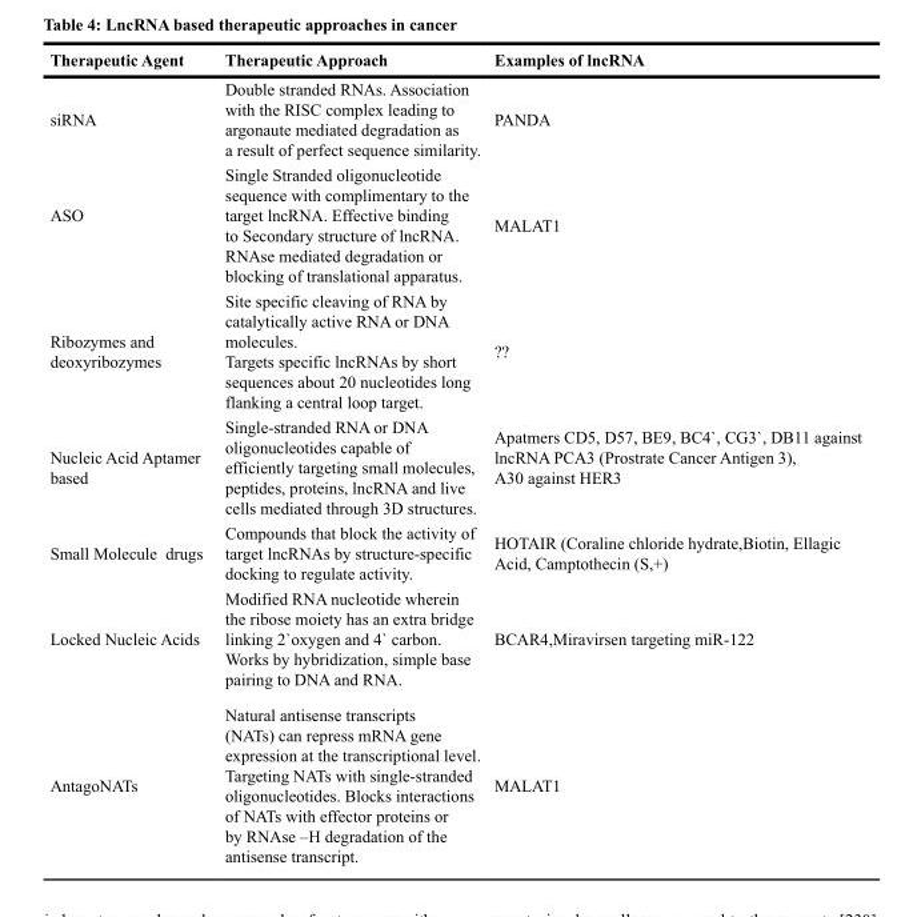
<table><thead><tr><td>Therapeutic Agent</td><td>Therapeutic Approach</td><td>Examples of lncRNA</td></tr></thead><tbody><tr><td>siRNA</td><td>Double stranded RNAs. Association with the RISC complex leading to argonaute mediated degradation as a result of perfect sequence similarity.</td><td>PANDA</td></tr><tr><td>ASO</td><td>Single Stranded oligonucleotide sequence with complimentary to the target lncRNA. Effective binding to Secondary structure of lncRNA. RNAse mediated degradation or blocking of translational apparatus.</td><td>MALAT1</td></tr><tr><td>Ribozymes and deoxyribozymes</td><td>Site specific cleaving of RNA by catalytically active RNA or DNA molecules. Targets specific lncRNAs by short sequences about 20 nucleotides long flanking a central loop target.</td><td>??</td></tr><tr><td>Nucleic Acid Aptamer based</td><td>Single-stranded RNA or DNA oligonucleotides capable of efficiently targeting small molecules, peptides, proteins, lncRNA and live cells mediated through 3D structures.</td><td>Apatmers CD5, D57, BE9, BC4`, CG3`, DB11 against lncRNA PCA3 (Prostrate Cancer Antigen 3), A30 against HER3</td></tr><tr><td>Small Molecule drugs</td><td>Compounds that block the activity of target lncRNAs by structure-specific docking to regulate activity.</td><td>HOTAIR (Coraline chloride hydrate,Biotin, Ellagic Acid, Camptothecin (S,+)</td></tr><tr><td>Locked Nucleic Acids</td><td>Modified RNA nucleotide wherein the ribose moiety has an extra bridge linking 2`oxygen and 4` carbon. Works by hybridization, simple base pairing to DNA and RNA.</td><td>BCAR4,Miravirsen targeting miR-122</td></tr><tr><td>AntagoNATs</td><td>Natural antisense transcripts (NATs) can repress mRNA gene expression at the transcriptional level. Targeting NATs with single-stranded oligonucleotides. Blocks interactions of NATs with effector proteins or by RNAse –H degradation of the antisense transcript.</td><td>MALAT1</td></tr></tbody></table>